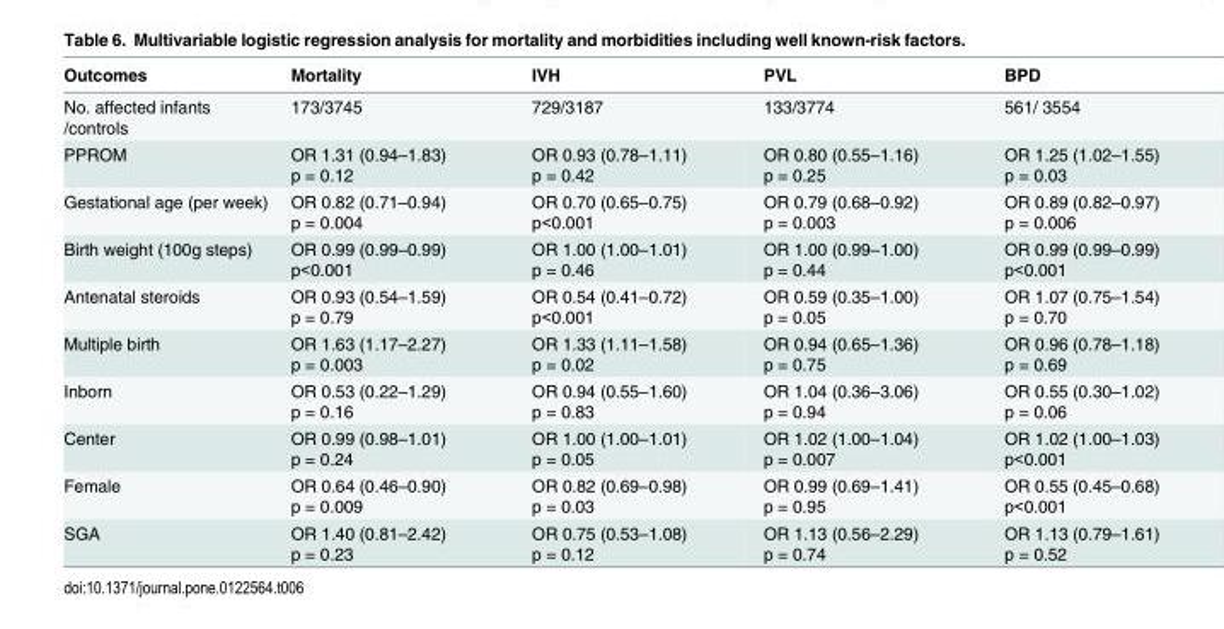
<table><thead><tr><td>Outcomes</td><td>Mortality</td><td>IVH</td><td>PVL</td><td>BPD</td></tr></thead><tbody><tr><td>No. affected infants /controls</td><td>173/3745</td><td>729/3187</td><td>133/3774</td><td>561/ 3554</td></tr><tr><td>PPROM</td><td>OR 1.31 (0.94–1.83) p = 0.12</td><td>OR 0.93 (0.78–1.11) p = 0.42</td><td>OR 0.80 (0.55–1.16) p = 0.25</td><td>OR 1.25 (1.02–1.55) p = 0.03</td></tr><tr><td>Gestational age (per week)</td><td>OR 0.82 (0.71–0.94) p = 0.004</td><td>OR 0.70 (0.65–0.75) p&lt;0.001</td><td>OR 0.79 (0.68–0.92) p = 0.003</td><td>OR 0.89 (0.82–0.97) p = 0.006</td></tr><tr><td>Birth weight (100g steps)</td><td>OR 0.99 (0.99–0.99) p&lt;0.001</td><td>OR 1.00 (1.00–1.01) p = 0.46</td><td>OR 1.00 (0.99–1.00) p = 0.44</td><td>OR 0.99 (0.99–0.99) p&lt;0.001</td></tr><tr><td>Antenatal steroids</td><td>OR 0.93 (0.54–1.59) p = 0.79</td><td>OR 0.54 (0.41–0.72) p&lt;0.001</td><td>OR 0.59 (0.35–1.00) p = 0.05</td><td>OR 1.07 (0.75–1.54) p = 0.70</td></tr><tr><td>Multiple birth</td><td>OR 1.63 (1.17–2.27) p = 0.003</td><td>OR 1.33 (1.11–1.58) p = 0.02</td><td>OR 0.94 (0.65–1.36) p = 0.75</td><td>OR 0.96 (0.78–1.18) p = 0.69</td></tr><tr><td>Inborn</td><td>OR 0.53 (0.22–1.29) p = 0.16</td><td>OR 0.94 (0.55–1.60) p = 0.83</td><td>OR 1.04 (0.36–3.06) p = 0.94</td><td>OR 0.55 (0.30–1.02) p = 0.06</td></tr><tr><td>Center</td><td>OR 0.99 (0.98–1.01) p = 0.24</td><td>OR 1.00 (1.00–1.01) p = 0.05</td><td>OR 1.02 (1.00–1.04) p = 0.007</td><td>OR 1.02 (1.00–1.03) p&lt;0.001</td></tr><tr><td>Female</td><td>OR 0.64 (0.46–0.90) p = 0.009</td><td>OR 0.82 (0.69–0.98) p = 0.03</td><td>OR 0.99 (0.69–1.41) p = 0.95</td><td>OR 0.55 (0.45–0.68) p&lt;0.001</td></tr><tr><td>SGA</td><td>OR 1.40 (0.81–2.42) p = 0.23</td><td>OR 0.75 (0.53–1.08) p = 0.12</td><td>OR 1.13 (0.56–2.29) p = 0.74</td><td>OR 1.13 (0.79–1.61) p = 0.52</td></tr></tbody></table>